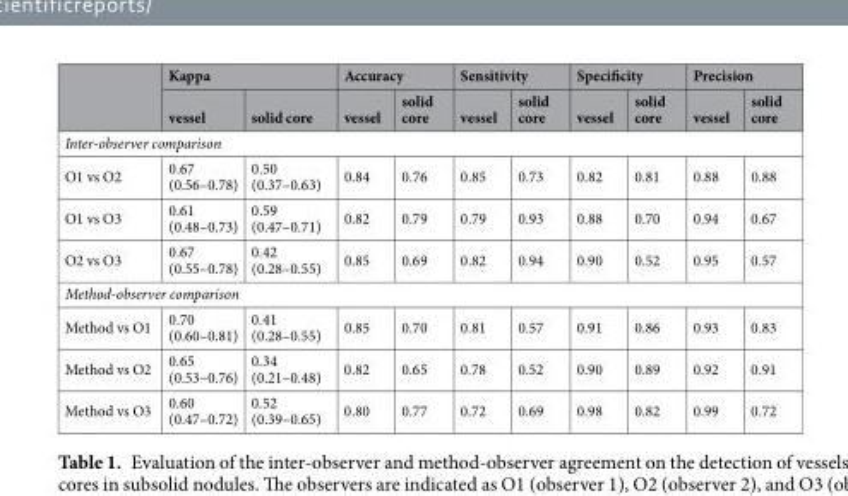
<table><thead><tr><td rowspan="2"></td><td colspan="2">Kappa</td><td colspan="2">Accuracy</td><td colspan="2">Sensitivity</td><td colspan="2">Specificity</td><td colspan="2">Precision</td></tr><tr><td>vessel</td><td>solid core</td><td>vessel</td><td>solid core</td><td>vessel</td><td>solid core</td><td>vessel</td><td>solid core</td><td>vessel</td><td>solid core</td></tr></thead><tbody><tr><td colspan="11">Inter-observer comparison</td></tr><tr><td>O1 vs O2</td><td>0.67 (0.56–0.78)</td><td>0.50 (0.37–0.63)</td><td>0.84</td><td>0.76</td><td>0.85</td><td>0.73</td><td>0.82</td><td>0.81</td><td>0.88</td><td>0.88</td></tr><tr><td>O1 vs O3</td><td>0.61 (0.48–0.73)</td><td>0.59 (0.47–0.71)</td><td>0.82</td><td>0.79</td><td>0.79</td><td>0.93</td><td>0.88</td><td>0.70</td><td>0.94</td><td>0.67</td></tr><tr><td>O2 vs O3</td><td>0.67 (0.55–0.78)</td><td>0.42 (0.28–0.55)</td><td>0.85</td><td>0.69</td><td>0.82</td><td>0.94</td><td>0.90</td><td>0.52</td><td>0.95</td><td>0.57</td></tr><tr><td colspan="11">Method-observer comparison</td></tr><tr><td>Method vs O1</td><td>0.70 (0.60–0.81)</td><td>0.41 (0.28–0.55)</td><td>0.85</td><td>0.70</td><td>0.81</td><td>0.57</td><td>0.91</td><td>0.86</td><td>0.93</td><td>0.83</td></tr><tr><td>Method vs O2</td><td>0.65 (0.53–0.76)</td><td>0.34 (0.21–0.48)</td><td>0.82</td><td>0.65</td><td>0.78</td><td>0.52</td><td>0.90</td><td>0.89</td><td>0.92</td><td>0.91</td></tr><tr><td>Method vs O3</td><td>0.60 (0.47–0.72)</td><td>0.52 (0.39–0.65)</td><td>0.80</td><td>0.77</td><td>0.72</td><td>0.69</td><td>0.98</td><td>0.82</td><td>0.99</td><td>0.72</td></tr></tbody></table>